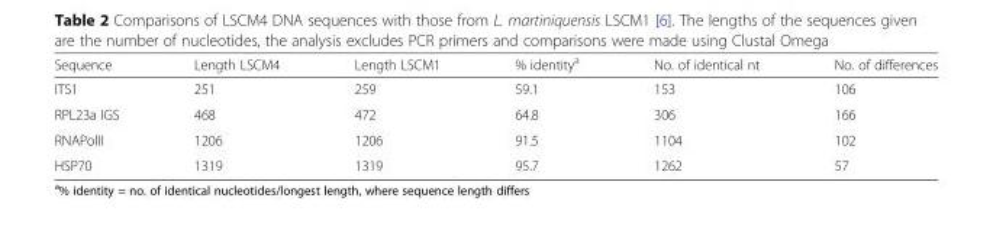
<table><thead><tr><td>Sequence</td><td>Length LSCM4</td><td>Length LSCM1</td><td>% identity<sup>a</sup></td><td>No. of identical nt</td><td>No. of differences</td></tr></thead><tbody><tr><td>ITS1</td><td>251</td><td>259</td><td>59.1</td><td>153</td><td>106</td></tr><tr><td>RPL23a IGS</td><td>468</td><td>472</td><td>64.8</td><td>306</td><td>166</td></tr><tr><td>RNAPolII</td><td>1206</td><td>1206</td><td>91.5</td><td>1104</td><td>102</td></tr><tr><td>HSP70</td><td>1319</td><td>1319</td><td>95.7</td><td>1262</td><td>57</td></tr></tbody></table>